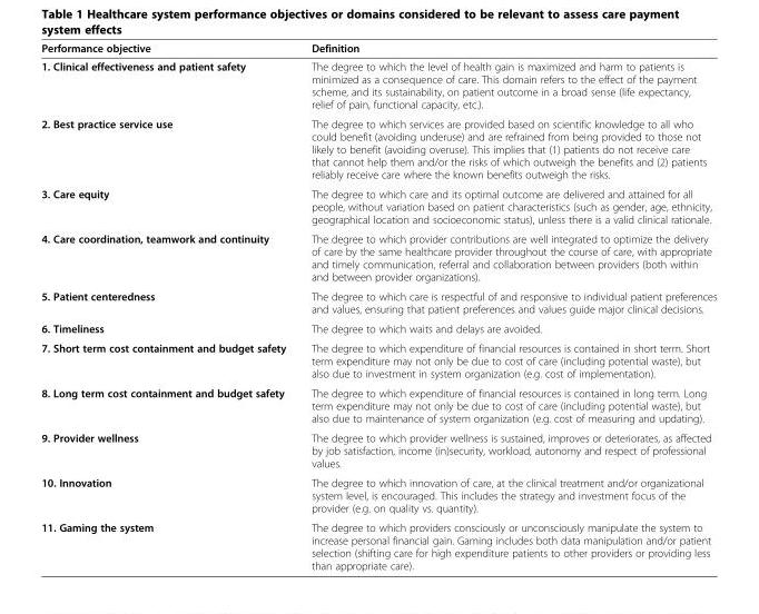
<table><thead><tr><td>Performance objective</td><td>Definition</td></tr></thead><tbody><tr><td>1. Clinical effectiveness and patient safety</td><td>The degree to which the level of health gain is maximized and harm to patients is minimized as a consequence of care. This domain refers to the effect of the payment scheme, and its sustainability, on patient outcome in a broad sense (life expectancy, relief of pain, functional capacity, etc.).</td></tr><tr><td>2. Best practice service use</td><td>The degree to which services are provided based on scientific knowledge to all who could benefit (avoiding underuse) and are refrained from being provided to those not likely to benefit (avoiding overuse). This implies that (1) patients do not receive care that cannot help them and/or the risks of which outweigh the benefits and (2) patients reliably receive care where the known benefits outweigh the risks.</td></tr><tr><td>3. Care equity</td><td>The degree to which care and its optimal outcome are delivered and attained for all people, without variation based on patient characteristics (such as gender, age, ethnicity, geographical location and socioeconomic status), unless there is a valid clinical rationale.</td></tr><tr><td>4. Care coordination, teamwork and continuity</td><td>The degree to which provider contributions are well integrated to optimize the delivery of care by the same healthcare provider throughout the course of care, with appropriate and timely communication, referral and collaboration between providers (both within and between provider organizations).</td></tr><tr><td>5. Patient centeredness</td><td>The degree to which care is respectful of and responsive to individual patient preferences and values, ensuring that patient preferences and values guide major clinical decisions.</td></tr><tr><td>6. Timeliness</td><td>The degree to which waits and delays are avoided.</td></tr><tr><td>7. Short term cost containment and budget safety</td><td>The degree to which expenditure of financial resources is contained in short term. Short term expenditure may not only be due to cost of care (including potential waste), but also due to investment in system organization (e.g. cost of implementation).</td></tr><tr><td>8. Long term cost containment and budget safety</td><td>The degree to which expenditure of financial resources is contained in long term. Long term expenditure may not only be due to cost of care (including potential waste), but also due to maintenance of system organization (e.g. cost of measuring and updating).</td></tr><tr><td>9. Provider wellness</td><td>The degree to which provider wellness is sustained, improves or deteriorates, as affected by job satisfaction, income (in)security, workload, autonomy and respect of professional values.</td></tr><tr><td>10. Innovation</td><td>The degree to which innovation of care, at the clinical treatment and/or organizational system level, is encouraged. This includes the strategy and investment focus of the provider (e.g. on quality vs. quantity).</td></tr><tr><td>11. Gaming the system</td><td>The degree to which providers consciously or unconsciously manipulate the system to increase personal financial gain. Gaming includes both data manipulation and/or patient selection (shifting care for high expenditure patients to other providers or providing less than appropriate care).</td></tr></tbody></table>